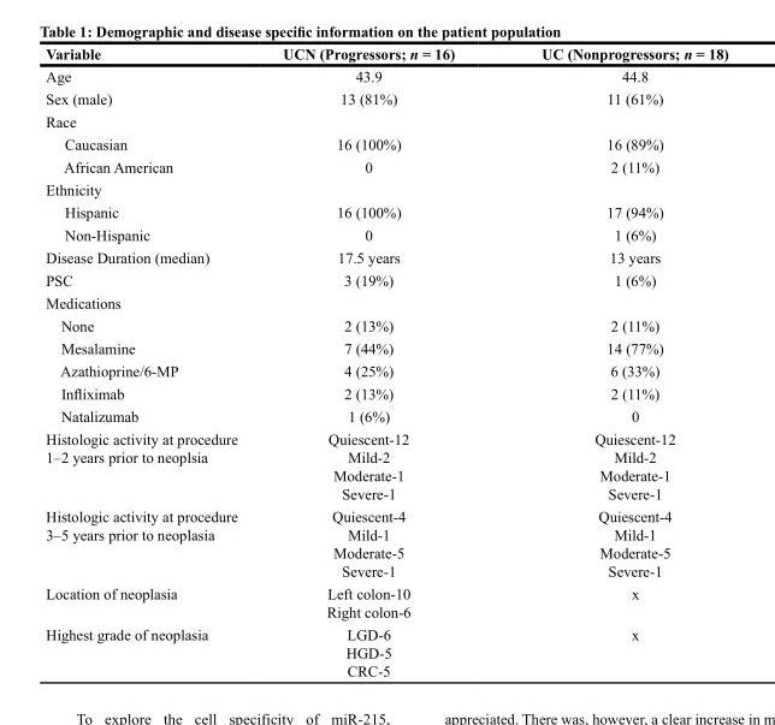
<table><thead><tr><td>Variable</td><td>UCN (Progressors; n = 16)</td><td>UC (Nonprogressors; n = 18)</td></tr></thead><tbody><tr><td>Age</td><td>43.9</td><td>44.8</td></tr><tr><td>Sex (male)</td><td>13 (81%)</td><td>11 (61%)</td></tr><tr><td colspan="3">Race</td></tr><tr><td>Caucasian</td><td>16 (100%)</td><td>16 (89%)</td></tr><tr><td>African American</td><td>0</td><td>2 (11%)</td></tr><tr><td colspan="3">Ethnicity</td></tr><tr><td>Hispanic</td><td>16 (100%)</td><td>17 (94%)</td></tr><tr><td>Non-Hispanic</td><td>0</td><td>1 (6%)</td></tr><tr><td>Disease Duration (median)</td><td>17.5 years</td><td>13 years</td></tr><tr><td>PSC</td><td>3 (19%)</td><td>1 (6%)</td></tr><tr><td colspan="3">Medications</td></tr><tr><td>None</td><td>2 (13%)</td><td>2 (11%)</td></tr><tr><td>Mesalamine</td><td>7 (44%)</td><td>14 (77%)</td></tr><tr><td>Azathioprine/6-MP</td><td>4 (25%)</td><td>6 (33%)</td></tr><tr><td>Infliximab</td><td>2 (13%)</td><td>2 (11%)</td></tr><tr><td>Natalizumab</td><td>1 (6%)</td><td>0</td></tr><tr><td>Histologic activity at procedure 1–2 years prior to neoplsia</td><td>Quiescent-12 Mild-2 Moderate-1 Severe-1</td><td>Quiescent-12 Mild-2 Moderate-1 Severe-1</td></tr><tr><td>Histologic activity at procedure 3–5 years prior to neoplasia</td><td>Quiescent-4 Mild-1 Moderate-5 Severe-1</td><td>Quiescent-4 Mild-1 Moderate-5 Severe-1</td></tr><tr><td>Location of neoplasia</td><td>Left colon-10 Right colon-6</td><td>x</td></tr><tr><td>Highest grade of neoplasia</td><td>LGD-6 HGD-5 CRC-5</td><td>x</td></tr></tbody></table>